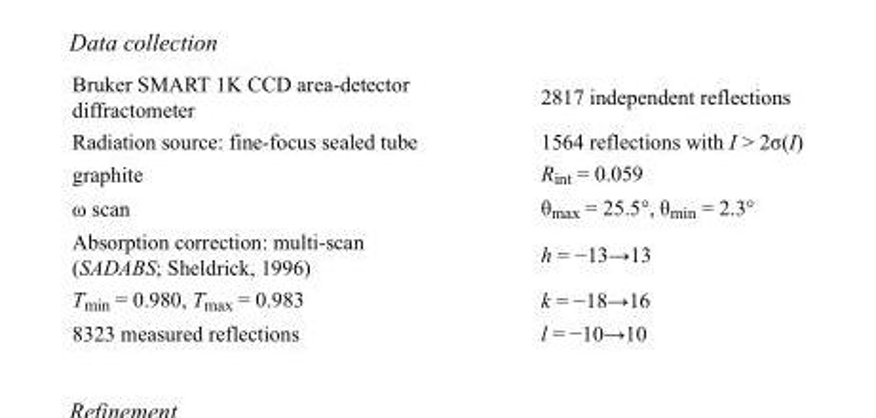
<table><tbody><tr><td>Bruker SMART 1K CCD area-detector diffractometer</td><td>2817 independent reflections</td></tr><tr><td>Radiation source: fine-focus sealed tube</td><td>1564 reflections with I &gt; 2σ(I)</td></tr><tr><td>graphite</td><td>R<sub>int</sub> = 0.059</td></tr><tr><td>ω scan</td><td>θ<sub>max</sub> = 25.5°, θ<sub>min</sub> = 2.3°</td></tr><tr><td>Absorption correction: multi-scan (SADABS; Sheldrick, 1996)</td><td>h = −13→13</td></tr><tr><td>T<sub>min</sub> = 0.980, T<sub>max</sub> = 0.983</td><td>k = −18→16</td></tr><tr><td>8323 measured reflections</td><td>l = −10→10</td></tr></tbody></table>